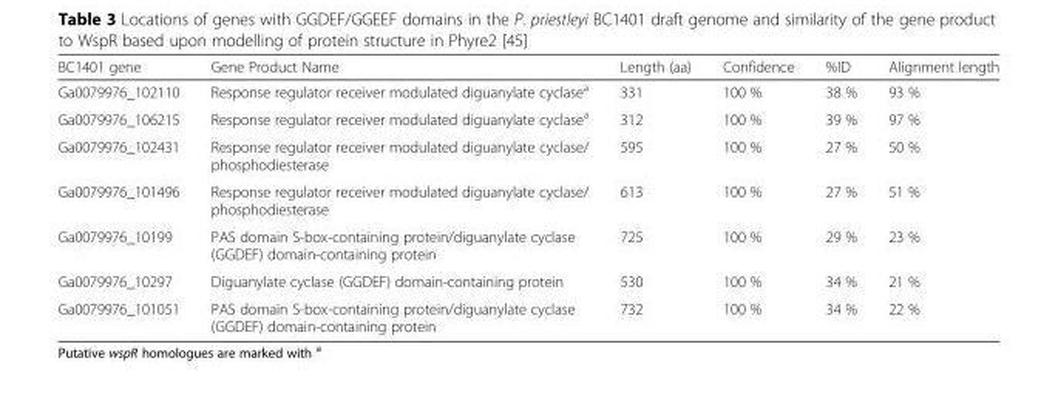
<table><thead><tr><td>BC1401 gene</td><td>Gene Product Name</td><td>Length (aa)</td><td>Confidence</td><td>%ID</td><td>Alignment length</td></tr></thead><tbody><tr><td>Ga0079976_102110</td><td>Response regulator receiver modulated diguanylate cyclase<sup>a</sup></td><td>331</td><td>100 %</td><td>38 %</td><td>93 %</td></tr><tr><td>Ga0079976_106215</td><td>Response regulator receiver modulated diguanylate cyclase<sup>a</sup></td><td>312</td><td>100 %</td><td>39 %</td><td>97 %</td></tr><tr><td>Ga0079976_102431</td><td>Response regulator receiver modulated diguanylate cyclase/ phosphodiesterase</td><td>595</td><td>100 %</td><td>27 %</td><td>50 %</td></tr><tr><td>Ga0079976_101496</td><td>Response regulator receiver modulated diguanylate cyclase/ phosphodiesterase</td><td>613</td><td>100 %</td><td>27 %</td><td>51 %</td></tr><tr><td>Ga0079976_10199</td><td>PAS domain S-box-containing protein/diguanylate cyclase (GGDEF) domain-containing protein</td><td>725</td><td>100 %</td><td>29 %</td><td>23 %</td></tr><tr><td>Ga0079976_10297</td><td>Diguanylate cyclase (GGDEF) domain-containing protein</td><td>530</td><td>100 %</td><td>34 %</td><td>21 %</td></tr><tr><td>Ga0079976_101051</td><td>PAS domain S-box-containing protein/diguanylate cyclase (GGDEF) domain-containing protein</td><td>732</td><td>100 %</td><td>34 %</td><td>22 %</td></tr></tbody></table>